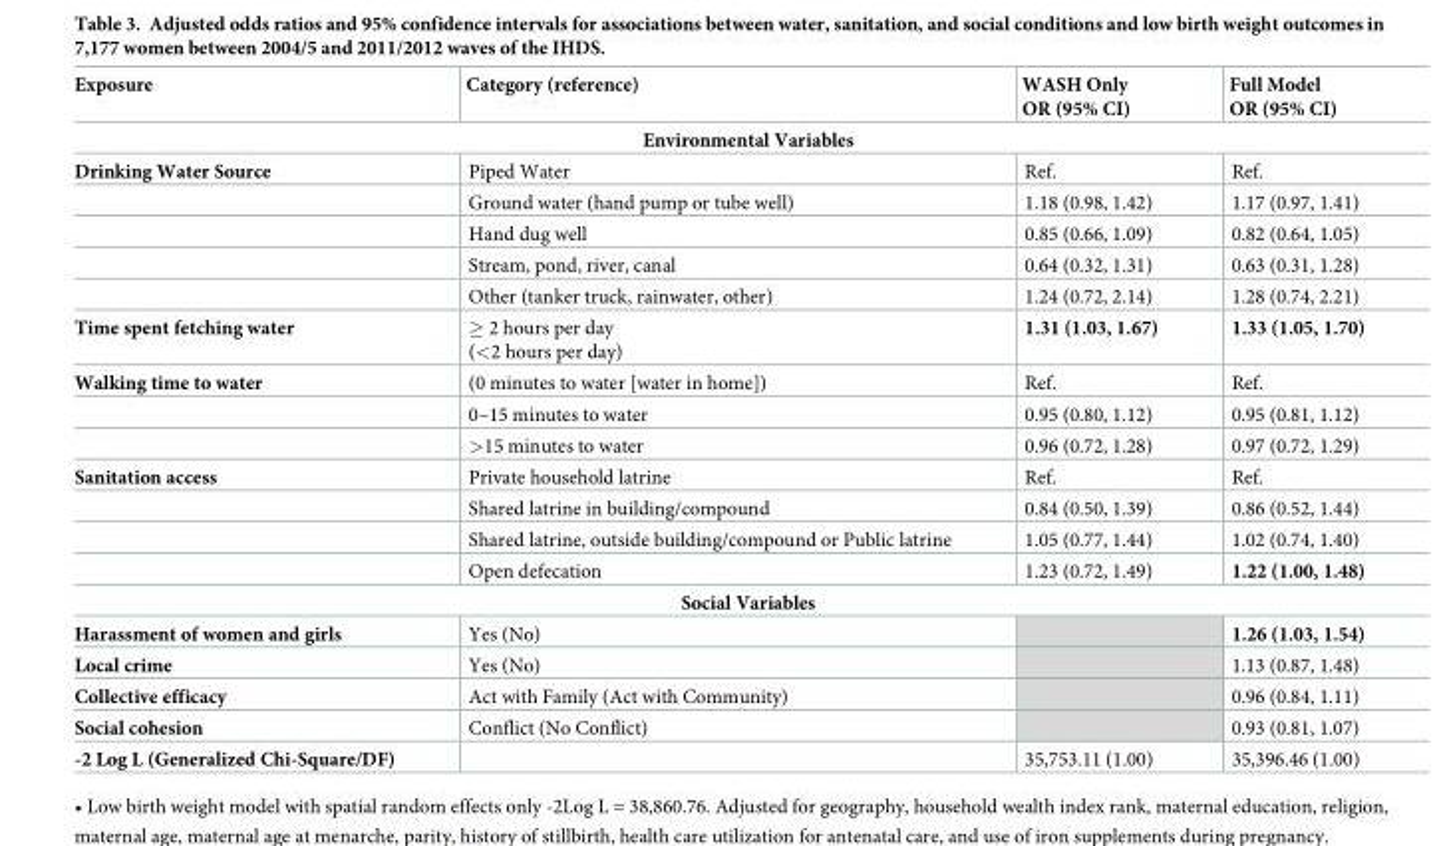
<table><thead><tr><td>Exposure</td><td>Category (reference)</td><td>WASH Only OR (95% CI)</td><td>Full Model OR (95% CI)</td></tr></thead><tbody><tr><td colspan="4">Environmental Variables</td></tr><tr><td rowspan="5">Drinking Water Source</td><td>Piped Water</td><td>Ref.</td><td>Ref.</td></tr><tr><td>Ground water (hand pump or tube well)</td><td>1.18 (0.98, 1.42)</td><td>1.17 (0.97, 1.41)</td></tr><tr><td>Hand dug well</td><td>0.85 (0.66, 1.09)</td><td>0.82 (0.64, 1.05)</td></tr><tr><td>Stream, pond, river, canal</td><td>0.64 (0.32, 1.31)</td><td>0.63 (0.31, 1.28)</td></tr><tr><td>Other (tanker truck, rainwater, other)</td><td>1.24 (0.72, 2.14)</td><td>1.28 (0.74, 2.21)</td></tr><tr><td>Time spent fetching water</td><td>≥ 2 hours per day (&lt;2 hours per day)</td><td>1.31 (1.03, 1.67)</td><td>1.33 (1.05, 1.70)</td></tr><tr><td rowspan="3">Walking time to water</td><td>(0 minutes to water [water in home])</td><td>Ref.</td><td>Ref.</td></tr><tr><td>0–15 minutes to water</td><td>0.95 (0.80, 1.12)</td><td>0.95 (0.81, 1.12)</td></tr><tr><td>&gt;15 minutes to water</td><td>0.96 (0.72, 1.28)</td><td>0.97 (0.72, 1.29)</td></tr><tr><td rowspan="4">Sanitation access</td><td>Private household latrine</td><td>Ref.</td><td>Ref.</td></tr><tr><td>Shared latrine in building/compound</td><td>0.84 (0.50, 1.39)</td><td>0.86 (0.52, 1.44)</td></tr><tr><td>Shared latrine, outside building/compound or Public latrine</td><td>1.05 (0.77, 1.44)</td><td>1.02 (0.74, 1.40)</td></tr><tr><td>Open defecation</td><td>1.23 (0.72, 1.49)</td><td>1.22 (1.00, 1.48)</td></tr><tr><td colspan="4">Social Variables</td></tr><tr><td>Harassment of women and girls</td><td>Yes (No)</td><td></td><td>1.26 (1.03, 1.54)</td></tr><tr><td>Local crime</td><td>Yes (No)</td><td></td><td>1.13 (0.87, 1.48)</td></tr><tr><td>Collective efficacy</td><td>Act with Family (Act with Community)</td><td></td><td>0.96 (0.84, 1.11)</td></tr><tr><td>Social cohesion</td><td>Conflict (No Conflict)</td><td></td><td>0.93 (0.81, 1.07)</td></tr><tr><td>-2 Log L (Generalized Chi-Square/DF)</td><td></td><td>35,753.11 (1.00)</td><td>35,396.46 (1.00)</td></tr></tbody></table>